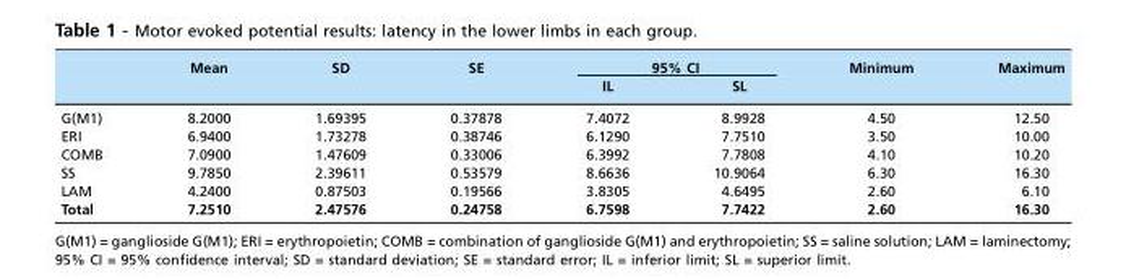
<table><thead><tr><td rowspan="2"></td><td rowspan="2">Mean</td><td rowspan="2">SD</td><td rowspan="2">SE</td><td colspan="2">95% CI</td><td rowspan="2">Minimum</td><td rowspan="2">Maximum</td></tr><tr><td>IL</td><td>SL</td></tr></thead><tbody><tr><td>G(M1)</td><td>8.2000</td><td>1.69395</td><td>0.37878</td><td>7.4072</td><td>8.9928</td><td>4.50</td><td>12.50</td></tr><tr><td>ERI</td><td>6.9400</td><td>1.73278</td><td>0.38746</td><td>6.1290</td><td>7.7510</td><td>3.50</td><td>10.00</td></tr><tr><td>COMB</td><td>7.0900</td><td>1.47609</td><td>0.33006</td><td>6.3992</td><td>7.7808</td><td>4.10</td><td>10.20</td></tr><tr><td>SS</td><td>9.7850</td><td>2.39611</td><td>0.53579</td><td>8.6636</td><td>10.9064</td><td>6.30</td><td>16.30</td></tr><tr><td>LAM</td><td>4.2400</td><td>0.87503</td><td>0.19566</td><td>3.8305</td><td>4.6495</td><td>2.60</td><td>6.10</td></tr><tr><td>Total</td><td>7.2510</td><td>2.47576</td><td>0.24758</td><td>6.7598</td><td>7.7422</td><td>2.60</td><td>16.30</td></tr></tbody></table>